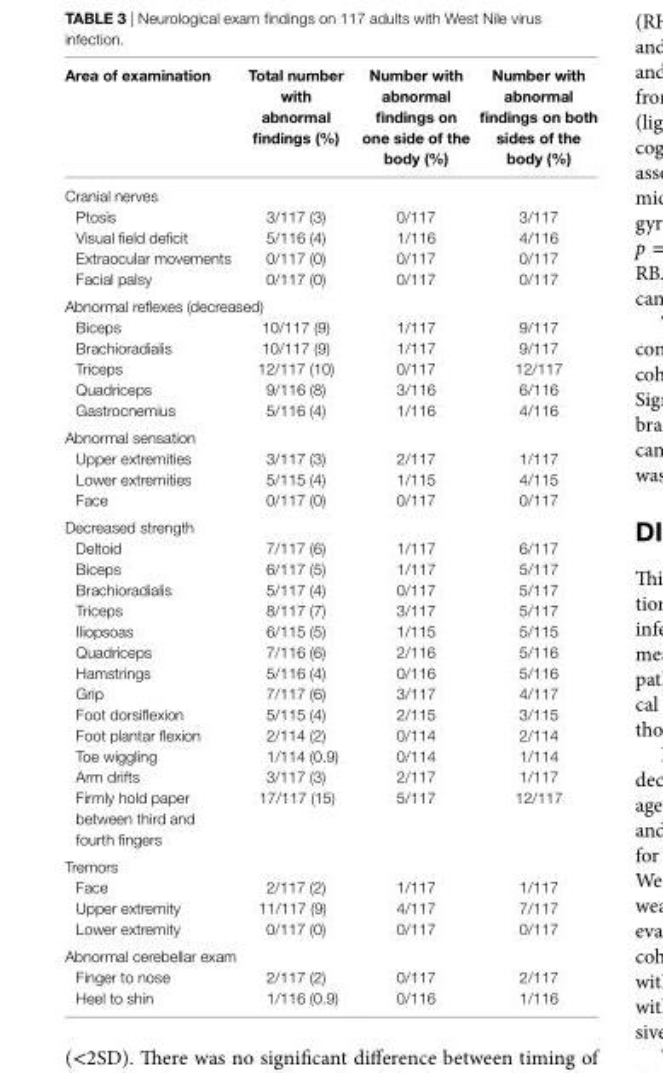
<table><thead><tr><td>area of examination</td><td>Total number with abnormal findings (%)</td><td>number with abnormal findings on one side of the body (%)</td><td>number with abnormal findings on both sides of the body (%)</td></tr></thead><tbody><tr><td colspan="4">Cranial nerves</td></tr><tr><td>Ptosis</td><td>3/117 (3)</td><td>0/117</td><td>3/117</td></tr><tr><td>Visual field deficit</td><td>5/116 (4)</td><td>1/116</td><td>4/116</td></tr><tr><td>Extraocular movements</td><td>0/117 (0)</td><td>0/117</td><td>0/117</td></tr><tr><td>Facial palsy</td><td>0/117 (0)</td><td>0/117</td><td>0/117</td></tr><tr><td colspan="4">Abnormal reflexes (decreased)</td></tr><tr><td>Biceps</td><td>10/117 (9)</td><td>1/117</td><td>9/117</td></tr><tr><td>Brachioradialis</td><td>10/117 (9)</td><td>1/117</td><td>9/117</td></tr><tr><td>Triceps</td><td>12/117 (10)</td><td>0/117</td><td>12/117</td></tr><tr><td>Quadriceps</td><td>9/116 (8)</td><td>3/116</td><td>6/116</td></tr><tr><td>Gastrocnemius</td><td>5/116 (4)</td><td>1/116</td><td>4/116</td></tr><tr><td colspan="4">Abnormal sensation</td></tr><tr><td>Upper extremities</td><td>3/117 (3)</td><td>2/117</td><td>1/117</td></tr><tr><td>Lower extremities</td><td>5/115 (4)</td><td>1/115</td><td>4/115</td></tr><tr><td>Face</td><td>0/117 (0)</td><td>0/117</td><td>0/117</td></tr><tr><td colspan="4">Decreased strength</td></tr><tr><td>Deltoid</td><td>7/117 (6)</td><td>1/117</td><td>6/117</td></tr><tr><td>Biceps</td><td>6/117 (5)</td><td>1/117</td><td>5/117</td></tr><tr><td>Brachioradialis</td><td>5/117 (4)</td><td>0/117</td><td>5/117</td></tr><tr><td>Triceps</td><td>8/117 (7)</td><td>3/117</td><td>5/117</td></tr><tr><td>Iliopsoas</td><td>6/115 (5)</td><td>1/115</td><td>5/115</td></tr><tr><td>Quadriceps</td><td>7/116 (6)</td><td>2/116</td><td>5/116</td></tr><tr><td>Hamstrings</td><td>5/116 (4)</td><td>0/116</td><td>5/116</td></tr><tr><td>Grip</td><td>7/117 (6)</td><td>3/117</td><td>4/117</td></tr><tr><td>Foot dorsiflexion</td><td>5/115 (4)</td><td>2/115</td><td>3/115</td></tr><tr><td>Foot plantar flexion</td><td>2/114 (2)</td><td>0/114</td><td>2/114</td></tr><tr><td>Toe wiggling</td><td>1/114 (0.9)</td><td>0/114</td><td>1/114</td></tr><tr><td>Arm drifts</td><td>3/117 (3)</td><td>2/117</td><td>1/117</td></tr><tr><td>Firmly hold paper between third and fourth fingers</td><td>17/117 (15)</td><td>5/117</td><td>12/117</td></tr><tr><td colspan="4">Tremors</td></tr><tr><td>Face</td><td>2/117 (2)</td><td>1/117</td><td>1/117</td></tr><tr><td>Upper extremity</td><td>11/117 (9)</td><td>4/117</td><td>7/117</td></tr><tr><td>Lower extremity</td><td>0/117 (0)</td><td>0/117</td><td>0/117</td></tr><tr><td colspan="4">Abnormal cerebellar exam</td></tr><tr><td>Finger to nose</td><td>2/117 (2)</td><td>0/117</td><td>2/117</td></tr><tr><td>Heel to shin</td><td>1/116 (0.9)</td><td>0/116</td><td>1/116</td></tr></tbody></table>